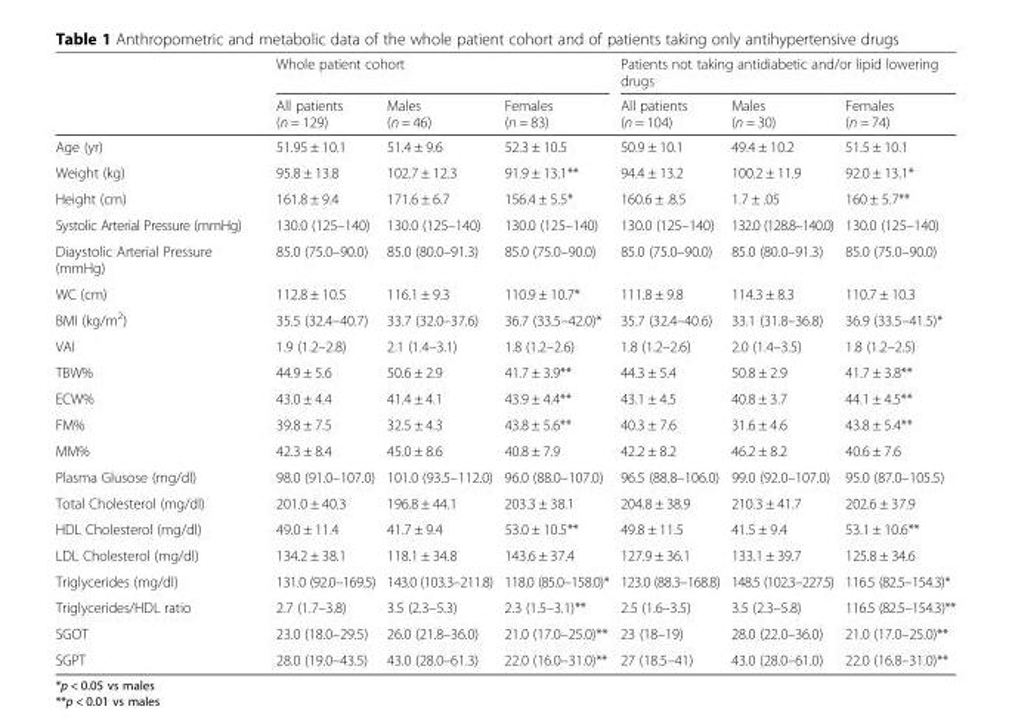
<table><thead><tr><td rowspan="2"></td><td colspan="3">Whole patient cohort</td><td colspan="3">Patients not taking antidiabetic and/or lipid lowering drugs</td></tr><tr><td>All patients (n = 129)</td><td>Males (n = 46)</td><td>Females (n = 83)</td><td>All patients (n = 104)</td><td>Males (n = 30)</td><td>Females (n = 74)</td></tr></thead><tbody><tr><td>Age (yr)</td><td>51.95 ± 10.1</td><td>51.4 ± 9.6</td><td>52.3 ± 10.5</td><td>50.9 ± 10.1</td><td>49.4 ± 10.2</td><td>51.5 ± 10.1</td></tr><tr><td>Weight (kg)</td><td>95.8 ± 13.8</td><td>102.7 ± 12.3</td><td>91.9 ± 13.1**</td><td>94.4 ± 13.2</td><td>100.2 ± 11.9</td><td>92.0 ± 13.1*</td></tr><tr><td>Height (cm)</td><td>161.8 ± 9.4</td><td>171.6 ± 6.7</td><td>156.4 ± 5.5*</td><td>160.6 ± .8.5</td><td>1.7 ± .05</td><td>160 ± 5.7**</td></tr><tr><td>Systolic Arterial Pressure (mmHg)</td><td>130.0 (125–140)</td><td>130.0 (125–140)</td><td>130.0 (125–140)</td><td>130.0 (125–140)</td><td>132.0 (128.8–140.0)</td><td>130.0 (125–140)</td></tr><tr><td>Diaystolic Arterial Pressure (mmHg)</td><td>85.0 (75.0–90.0)</td><td>85.0 (80.0–91.3)</td><td>85.0 (75.0–90.0)</td><td>85.0 (75.0–90.0)</td><td>85.0 (80.0–91.3)</td><td>85.0 (75.0–90.0)</td></tr><tr><td>WC (cm)</td><td>112.8 ± 10.5</td><td>116.1 ± 9.3</td><td>110.9 ± 10.7*</td><td>111.8 ± 9.8</td><td>114.3 ± 8.3</td><td>110.7 ± 10.3</td></tr><tr><td>BMI (kg/m<sup>2</sup>)</td><td>35.5 (32.4–40.7)</td><td>33.7 (32.0–37.6)</td><td>36.7 (33.5–42.0)*</td><td>35.7 (32.4–40.6)</td><td>33.1 (31.8–36.8)</td><td>36.9 (33.5–41.5)*</td></tr><tr><td>VAI</td><td>1.9 (1.2–2.8)</td><td>2.1 (1.4–3.1)</td><td>1.8 (1.2–2.6)</td><td>1.8 (1.2–2.6)</td><td>2.0 (1.4–3.5)</td><td>1.8 (1.2–2.5)</td></tr><tr><td>TBW%</td><td>44.9 ± 5.6</td><td>50.6 ± 2.9</td><td>41.7 ± 3.9**</td><td>44.3 ± 5.4</td><td>50.8 ± 2.9</td><td>41.7 ± 3.8**</td></tr><tr><td>ECW%</td><td>43.0 ± 4.4</td><td>41.4 ± 4.1</td><td>43.9 ± 4.4**</td><td>43.1 ± 4.5</td><td>40.8 ± 3.7</td><td>44.1 ± 4.5**</td></tr><tr><td>FM%</td><td>39.8 ± 7.5</td><td>32.5 ± 4.3</td><td>43.8 ± 5.6**</td><td>40.3 ± 7.6</td><td>31.6 ± 4.6</td><td>43.8 ± 5.4**</td></tr><tr><td>MM%</td><td>42.3 ± 8.4</td><td>45.0 ± 8.6</td><td>40.8 ± 7.9</td><td>42.2 ± 8.2</td><td>46.2 ± 8.2</td><td>40.6 ± 7.6</td></tr><tr><td>Plasma Glusose (mg/dl)</td><td>98.0 (91.0–107.0)</td><td>101.0 (93.5–112.0)</td><td>96.0 (88.0–107.0)</td><td>96.5 (88.8–106.0)</td><td>99.0 (92.0–107.0)</td><td>95.0 (87.0–105.5)</td></tr><tr><td>Total Cholesterol (mg/dl)</td><td>201.0 ± 40.3</td><td>196.8 ± 44.1</td><td>203.3 ± 38.1</td><td>204.8 ± 38.9</td><td>210.3 ± 41.7</td><td>202.6 ± 37.9</td></tr><tr><td>HDL Cholesterol (mg/dl)</td><td>49.0 ± 11.4</td><td>41.7 ± 9.4</td><td>53.0 ± 10.5**</td><td>49.8 ± 11.5</td><td>41.5 ± 9.4</td><td>53.1 ± 10.6**</td></tr><tr><td>LDL Cholesterol (mg/dl)</td><td>134.2 ± 38.1</td><td>118.1 ± 34.8</td><td>143.6 ± 37.4</td><td>127.9 ± 36.1</td><td>133.1 ± 39.7</td><td>125.8 ± 34.6</td></tr><tr><td>Triglycerides (mg/dl)</td><td>131.0 (92.0–169.5)</td><td>143.0 (103.3–211.8)</td><td>118.0 (85.0–158.0)*</td><td>123.0 (88.3–168.8)</td><td>148.5 (102.3–227.5)</td><td>116.5 (82.5–154.3)*</td></tr><tr><td>Triglycerides/HDL ratio</td><td>2.7 (1.7–3.8)</td><td>3.5 (2.3–5.3)</td><td>2.3 (1.5–3.1)**</td><td>2.5 (1.6–3.5)</td><td>3.5 (2.3–5.8)</td><td>116.5 (82.5–154.3)**</td></tr><tr><td>SGOT</td><td>23.0 (18.0–29.5)</td><td>26.0 (21.8–36.0)</td><td>21.0 (17.0–25.0)**</td><td>23 (18–19)</td><td>28.0 (22.0–36.0)</td><td>21.0 (17.0–25.0)**</td></tr><tr><td>SGPT</td><td>28.0 (19.0–43.5)</td><td>43.0 (28.0–61.3)</td><td>22.0 (16.0–31.0)**</td><td>27 (18.5–41)</td><td>43.0 (28.0–61.0)</td><td>22.0 (16.8–31.0)**</td></tr></tbody></table>